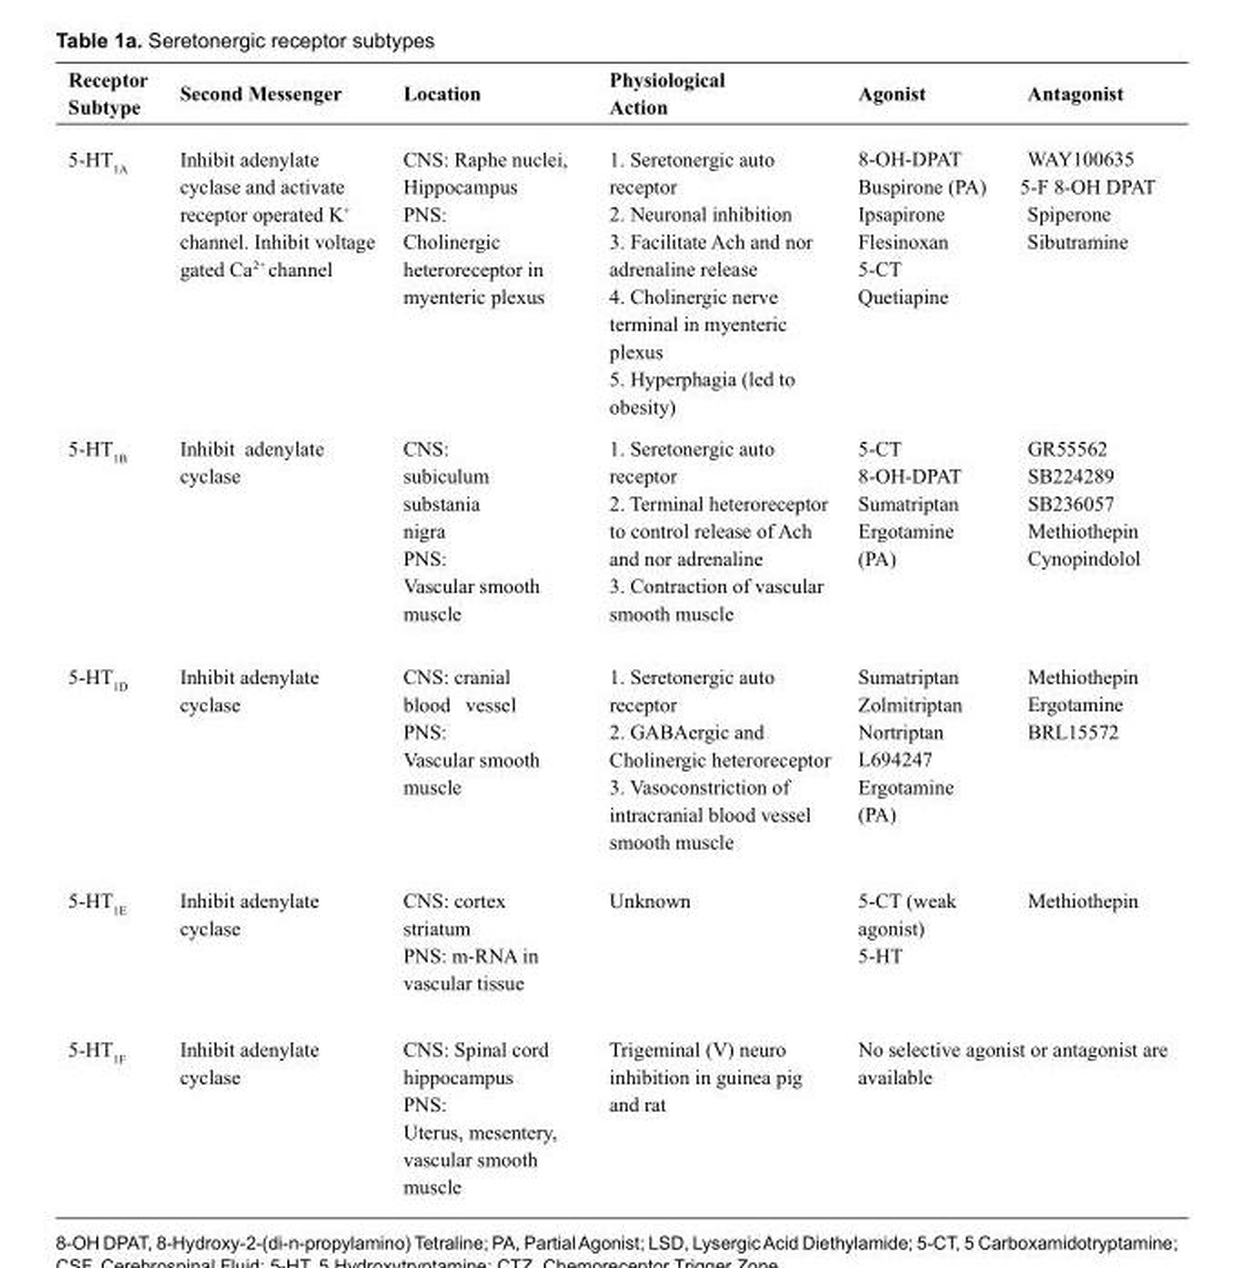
<table><thead><tr><td>Receptor Subtype</td><td>Second Messenger</td><td>Location</td><td>Physiological Action</td><td>Agonist</td><td>Antagonist</td></tr></thead><tbody><tr><td>5-HT<sub>1A</sub></td><td>Inhibit adenylate cyclase and activate receptor operated K<sup>+</sup> channel. Inhibit voltage gated Ca<sup>2+</sup> channel</td><td>CNS: Raphe nuclei, Hippocampus PNS: Cholinergic heteroreceptor in myenteric plexus</td><td>1. Seretonergic auto receptor 2. Neuronal inhibition 3. Facilitate Ach and nor adrenaline release 4. Cholinergic nerve terminal in myenteric plexus 5. Hyperphagia (led to obesity)</td><td>8-OH-DPAT Buspirone (PA) Ipsapirone Flesinoxan 5-CT Quetiapine</td><td>WAY100635 5-F 8-OH DPAT Spiperone Sibutramine</td></tr><tr><td>5-HT<sub>1B</sub></td><td>Inhibit adenylate cyclase</td><td>CNS: subiculum substania nigra PNS: Vascular smooth muscle</td><td>1. Seretonergic auto receptor 2. Terminal heteroreceptor to control release of Ach and nor adrenaline 3. Contraction of vascular smooth muscle</td><td>5-CT 8-OH-DPAT Sumatriptan Ergotamine (PA)</td><td>GR55562 SB224289 SB236057 Methiothepin Cynopindolol</td></tr><tr><td>5-HT<sub>1D</sub></td><td>Inhibit adenylate cyclase</td><td>CNS: cranial blood vessel PNS: Vascular smooth muscle</td><td>1. Seretonergic auto receptor 2. GABAergic and Cholinergic heteroreceptor 3. Vasoconstriction of intracranial blood vessel smooth muscle</td><td>Sumatriptan Zolmitriptan Nortriptan L694247 Ergotamine (PA)</td><td>Methiothepin Ergotamine BRL15572</td></tr><tr><td>5-HT<sub>1E</sub></td><td>Inhibit adenylate cyclase</td><td>CNS: cortex striatum PNS: m-RNA in vascular tissue</td><td>Unknown</td><td>5-CT (weak agonist) 5-HT</td><td>Methiothepin</td></tr><tr><td>5-HT<sub>1F</sub></td><td>Inhibit adenylate cyclase</td><td>CNS: Spinal cord hippocampus PNS: Uterus, mesentery, vascular smooth muscle</td><td>Trigeminal (V) neuro inhibition in guinea pig and rat</td><td colspan="2">No selective agonist or antagonist are available</td></tr></tbody></table>